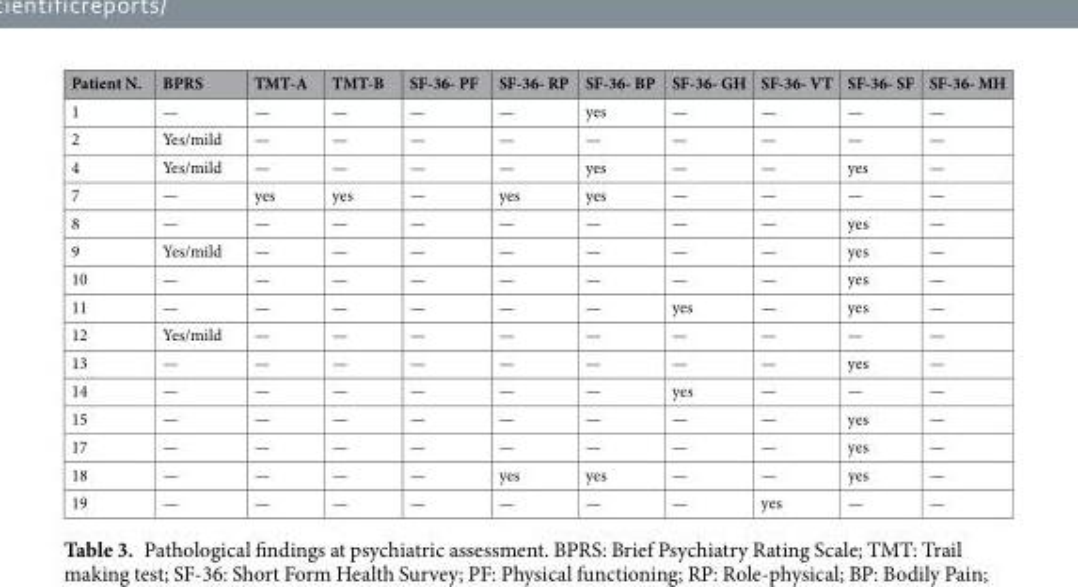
<table><thead><tr><td>Patient N.</td><td>BPRS</td><td>TMT-A</td><td>TMT-B</td><td>SF-36- PF</td><td>SF-36- RP</td><td>SF-36- BP</td><td>SF-36- GH</td><td>SF-36- VT</td><td>SF-36- SF</td><td>SF-36- MH</td></tr></thead><tbody><tr><td>1</td><td>—</td><td>—</td><td>—</td><td>—</td><td>—</td><td>yes</td><td>—</td><td>—</td><td>—</td><td>—</td></tr><tr><td>2</td><td>Yes/mild</td><td>—</td><td>—</td><td>—</td><td>—</td><td>—</td><td>—</td><td>—</td><td>—</td><td>—</td></tr><tr><td>4</td><td>Yes/mild</td><td>—</td><td>—</td><td>—</td><td>—</td><td>yes</td><td>—</td><td>—</td><td>yes</td><td>—</td></tr><tr><td>7</td><td>—</td><td>yes</td><td>yes</td><td>—</td><td>yes</td><td>yes</td><td>—</td><td>—</td><td>—</td><td>—</td></tr><tr><td>8</td><td>—</td><td>—</td><td>—</td><td>—</td><td>—</td><td>—</td><td>—</td><td>—</td><td>yes</td><td>—</td></tr><tr><td>9</td><td>Yes/mild</td><td>—</td><td>—</td><td>—</td><td>—</td><td>—</td><td>—</td><td>—</td><td>yes</td><td>—</td></tr><tr><td>10</td><td>—</td><td>—</td><td>—</td><td>—</td><td>—</td><td>—</td><td>—</td><td>—</td><td>yes</td><td>—</td></tr><tr><td>11</td><td>—</td><td>—</td><td>—</td><td>—</td><td>—</td><td>—</td><td>yes</td><td>—</td><td>yes</td><td>—</td></tr><tr><td>12</td><td>Yes/mild</td><td>—</td><td>—</td><td>—</td><td>—</td><td>—</td><td>—</td><td>—</td><td>—</td><td>—</td></tr><tr><td>13</td><td>—</td><td>—</td><td>—</td><td>—</td><td>—</td><td>—</td><td>—</td><td>—</td><td>yes</td><td>—</td></tr><tr><td>14</td><td>—</td><td>—</td><td>—</td><td>—</td><td>—</td><td>—</td><td>yes</td><td>—</td><td>—</td><td>—</td></tr><tr><td>15</td><td>—</td><td>—</td><td>—</td><td>—</td><td>—</td><td>—</td><td>—</td><td>—</td><td>yes</td><td>—</td></tr><tr><td>17</td><td>—</td><td>—</td><td>—</td><td>—</td><td>—</td><td>—</td><td>—</td><td>—</td><td>yes</td><td>—</td></tr><tr><td>18</td><td>—</td><td>—</td><td>—</td><td>—</td><td>yes</td><td>yes</td><td>—</td><td>—</td><td>yes</td><td>—</td></tr><tr><td>19</td><td>—</td><td>—</td><td>—</td><td>—</td><td>—</td><td>—</td><td>—</td><td>yes</td><td>—</td><td>—</td></tr></tbody></table>